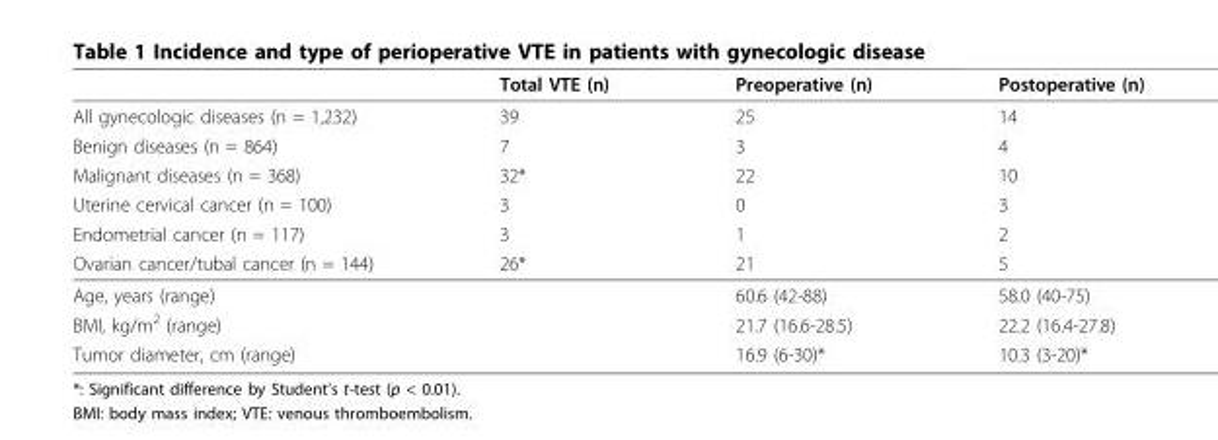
<table><thead><tr><td></td><td>Total VTE (n)</td><td>Preoperative (n)</td><td>Postoperative (n)</td></tr></thead><tbody><tr><td>All gynecologic diseases (n = 1,232)</td><td>39</td><td>25</td><td>14</td></tr><tr><td>Benign diseases (n = 864)</td><td>7</td><td>3</td><td>4</td></tr><tr><td>Malignant diseases (n = 368)</td><td>32*</td><td>22</td><td>10</td></tr><tr><td>Uterine cervical cancer (n = 100)</td><td>3</td><td>0</td><td>3</td></tr><tr><td>Endometrial cancer (n = 117)</td><td>3</td><td>1</td><td>2</td></tr><tr><td>Ovarian cancer/tubal cancer (n = 144)</td><td>26*</td><td>21</td><td>5</td></tr><tr><td colspan="2">Age, years (range)</td><td>60.6 (42-88)</td><td>58.0 (40-75)</td></tr><tr><td colspan="2">BMI, kg/m<sup>2</sup> (range)</td><td>21.7 (16.6-28.5)</td><td>22.2 (16.4-27.8)</td></tr><tr><td colspan="2">Tumor diameter, cm (range)</td><td>16.9 (6-30)*</td><td>10.3 (3-20)*</td></tr></tbody></table>